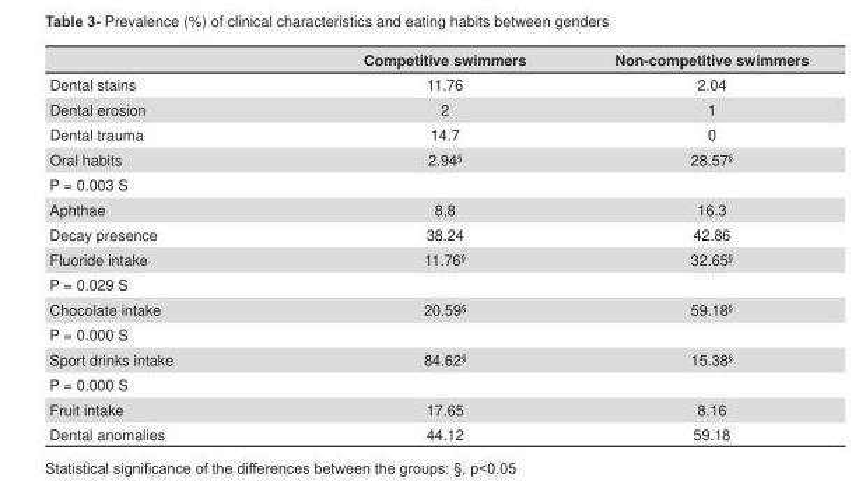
<table><thead><tr><td></td><td>Competitive swimmers</td><td>Non-competitive swimmers</td></tr></thead><tbody><tr><td>Dental stains</td><td>11.76</td><td>2.04</td></tr><tr><td>Dental erosion</td><td>2</td><td>1</td></tr><tr><td>Dental trauma</td><td>14.7</td><td>0</td></tr><tr><td>Oral habits</td><td>2.94<sup>§</sup></td><td>28.57<sup>§</sup></td></tr><tr><td colspan="3">P = 0.003 S</td></tr><tr><td>Aphthae</td><td>8,8</td><td>16.3</td></tr><tr><td>Decay presence</td><td>38.24</td><td>42.86</td></tr><tr><td>Fluoride intake</td><td>11.76<sup>§</sup></td><td>32.65<sup>§</sup></td></tr><tr><td colspan="3">P = 0.029 S</td></tr><tr><td>Chocolate intake</td><td>20.59<sup>§</sup></td><td>59.18<sup>§</sup></td></tr><tr><td colspan="3">P = 0.000 S</td></tr><tr><td>Sport drinks intake</td><td>84.62<sup>§</sup></td><td>15.38<sup>§</sup></td></tr><tr><td colspan="3">P = 0.000 S</td></tr><tr><td>Fruit intake</td><td>17.65</td><td>8.16</td></tr><tr><td>Dental anomalies</td><td>44.12</td><td>59.18</td></tr></tbody></table>